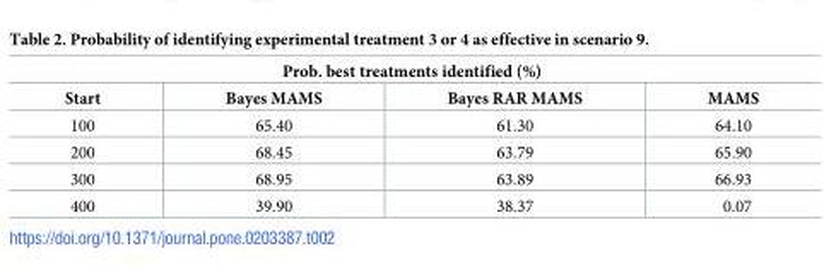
<table><thead><tr><td colspan="4">Prob. best treatments identified (%)</td></tr><tr><td>Start</td><td>Bayes MAMS</td><td>Bayes RAR MAMS</td><td>MAMS</td></tr></thead><tbody><tr><td>100</td><td>65.40</td><td>61.30</td><td>64.10</td></tr><tr><td>200</td><td>68.45</td><td>63.79</td><td>65.90</td></tr><tr><td>300</td><td>68.95</td><td>63.89</td><td>66.93</td></tr><tr><td>400</td><td>39.90</td><td>38.37</td><td>0.07</td></tr></tbody></table>